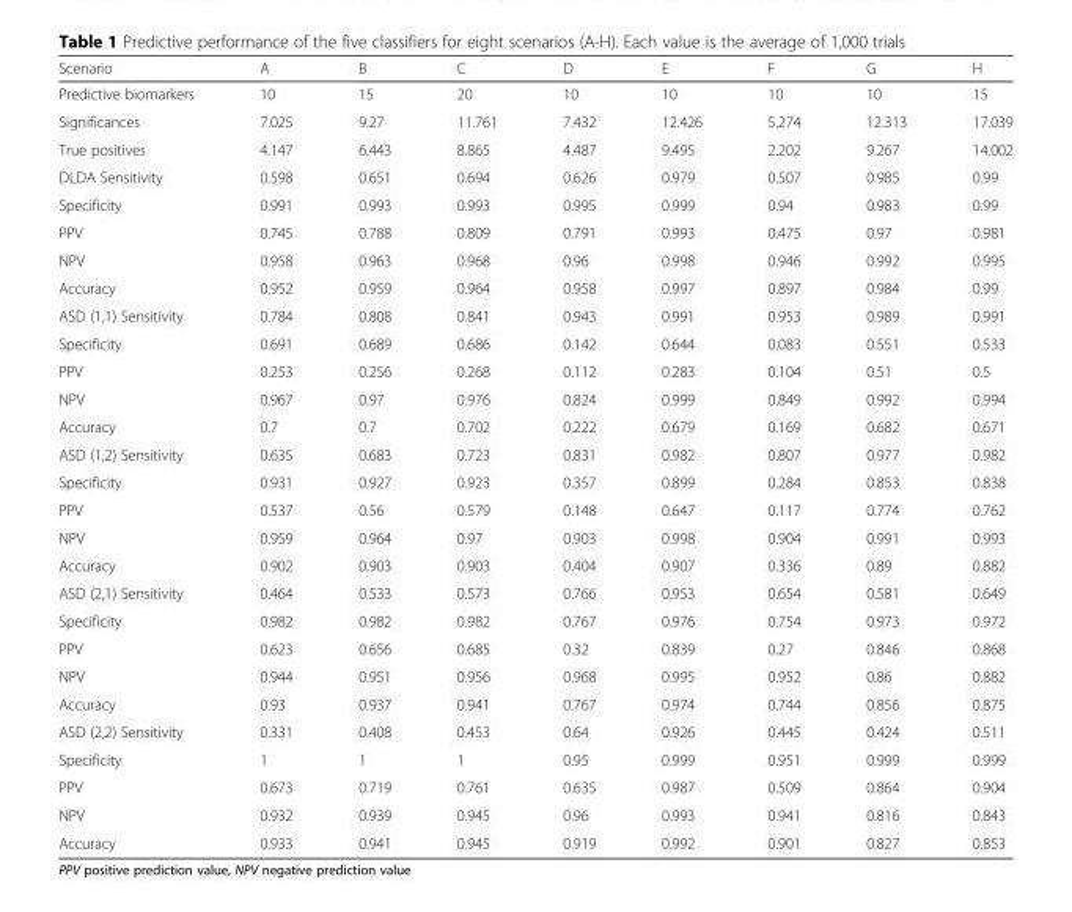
<table><thead><tr><td>Scenario</td><td>A</td><td>B</td><td>C</td><td>D</td><td>E</td><td>F</td><td>G</td><td>H</td></tr></thead><tbody><tr><td>Predictive biomarkers</td><td>10</td><td>15</td><td>20</td><td>10</td><td>10</td><td>10</td><td>10</td><td>15</td></tr><tr><td>Significances</td><td>7.025</td><td>9.27</td><td>11.761</td><td>7.432</td><td>12.426</td><td>5.274</td><td>12.313</td><td>17.039</td></tr><tr><td>True positives</td><td>4.147</td><td>6.443</td><td>8.865</td><td>4.487</td><td>9.495</td><td>2.202</td><td>9.267</td><td>14.002</td></tr><tr><td>DLDA Sensitivity</td><td>0.598</td><td>0.651</td><td>0.694</td><td>0.626</td><td>0.979</td><td>0.507</td><td>0.985</td><td>0.99</td></tr><tr><td>Specificity</td><td>0.991</td><td>0.993</td><td>0.993</td><td>0.995</td><td>0.999</td><td>0.94</td><td>0.983</td><td>0.99</td></tr><tr><td>PPV</td><td>0.745</td><td>0.788</td><td>0.809</td><td>0.791</td><td>0.993</td><td>0.475</td><td>0.97</td><td>0.981</td></tr><tr><td>NPV</td><td>0.958</td><td>0.963</td><td>0.968</td><td>0.96</td><td>0.998</td><td>0.946</td><td>0.992</td><td>0.995</td></tr><tr><td>Accuracy</td><td>0.952</td><td>0.959</td><td>0.964</td><td>0.958</td><td>0.997</td><td>0.897</td><td>0.984</td><td>0.99</td></tr><tr><td>ASD (1,1) Sensitivity</td><td>0.784</td><td>0.808</td><td>0.841</td><td>0.943</td><td>0.991</td><td>0.953</td><td>0.989</td><td>0.991</td></tr><tr><td>Specificity</td><td>0.691</td><td>0.689</td><td>0.686</td><td>0.142</td><td>0.644</td><td>0.083</td><td>0.551</td><td>0.533</td></tr><tr><td>PPV</td><td>0.253</td><td>0.256</td><td>0.268</td><td>0.112</td><td>0.283</td><td>0.104</td><td>0.51</td><td>0.5</td></tr><tr><td>NPV</td><td>0.967</td><td>0.97</td><td>0.976</td><td>0.824</td><td>0.999</td><td>0.849</td><td>0.992</td><td>0.994</td></tr><tr><td>Accuracy</td><td>0.7</td><td>0.7</td><td>0.702</td><td>0.222</td><td>0.679</td><td>0.169</td><td>0.682</td><td>0.671</td></tr><tr><td>ASD (1,2) Sensitivity</td><td>0.635</td><td>0.683</td><td>0.723</td><td>0.831</td><td>0.982</td><td>0.807</td><td>0.977</td><td>0.982</td></tr><tr><td>Specificity</td><td>0.931</td><td>0.927</td><td>0.923</td><td>0.357</td><td>0.899</td><td>0.284</td><td>0.853</td><td>0.838</td></tr><tr><td>PPV</td><td>0.537</td><td>0.56</td><td>0.579</td><td>0.148</td><td>0.647</td><td>0.117</td><td>0.774</td><td>0.762</td></tr><tr><td>NPV</td><td>0.959</td><td>0.964</td><td>0.97</td><td>0.903</td><td>0.998</td><td>0.904</td><td>0.991</td><td>0.993</td></tr><tr><td>Accuracy</td><td>0.902</td><td>0.903</td><td>0.903</td><td>0.404</td><td>0.907</td><td>0.336</td><td>0.89</td><td>0.882</td></tr><tr><td>ASD (2,1) Sensitivity</td><td>0.464</td><td>0.533</td><td>0.573</td><td>0.766</td><td>0.953</td><td>0.654</td><td>0.581</td><td>0.649</td></tr><tr><td>Specificity</td><td>0.982</td><td>0.982</td><td>0.982</td><td>0.767</td><td>0.976</td><td>0.754</td><td>0.973</td><td>0.972</td></tr><tr><td>PPV</td><td>0.623</td><td>0.656</td><td>0.685</td><td>0.32</td><td>0.839</td><td>0.27</td><td>0.846</td><td>0.868</td></tr><tr><td>NPV</td><td>0.944</td><td>0.951</td><td>0.956</td><td>0.968</td><td>0.995</td><td>0.952</td><td>0.86</td><td>0.882</td></tr><tr><td>Accuracy</td><td>0.93</td><td>0.937</td><td>0.941</td><td>0.767</td><td>0.974</td><td>0.744</td><td>0.856</td><td>0.875</td></tr><tr><td>ASD (2,2) Sensitivity</td><td>0.331</td><td>0.408</td><td>0.453</td><td>0.64</td><td>0.926</td><td>0.445</td><td>0.424</td><td>0.511</td></tr><tr><td>Specificity</td><td>1</td><td>1</td><td>1</td><td>0.95</td><td>0.999</td><td>0.951</td><td>0.999</td><td>0.999</td></tr><tr><td>PPV</td><td>0.673</td><td>0.719</td><td>0.761</td><td>0.635</td><td>0.987</td><td>0.509</td><td>0.864</td><td>0.904</td></tr><tr><td>NPV</td><td>0.932</td><td>0.939</td><td>0.945</td><td>0.96</td><td>0.993</td><td>0.941</td><td>0.816</td><td>0.843</td></tr><tr><td>Accuracy</td><td>0.933</td><td>0.941</td><td>0.945</td><td>0.919</td><td>0.992</td><td>0.901</td><td>0.827</td><td>0.853</td></tr></tbody></table>